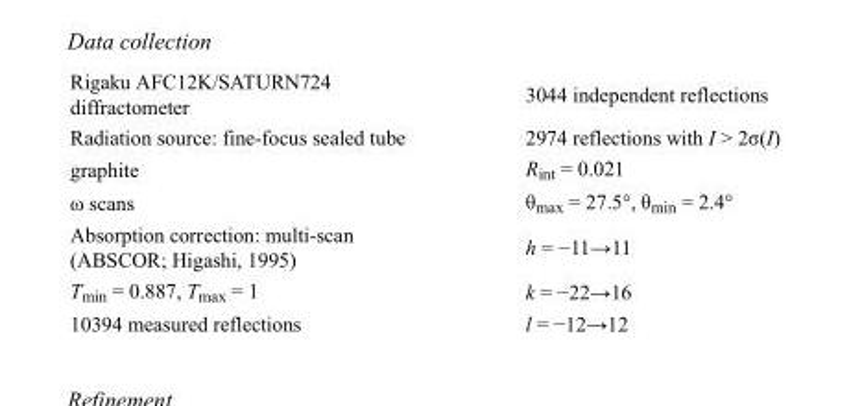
<table><tbody><tr><td>Rigaku AFC12K/SATURN724 diffractometer</td><td>3044 independent reflections</td></tr><tr><td>Radiation source: fine-focus sealed tube</td><td>2974 reflections with I &gt; 2σ(I)</td></tr><tr><td>graphite</td><td>R<sub>int</sub> = 0.021</td></tr><tr><td>ω scans</td><td>θ<sub>max</sub> = 27.5°, θ<sub>min</sub> = 2.4°</td></tr><tr><td>Absorption correction: multi-scan (ABSCOR; Higashi, 1995)</td><td>h = −11→11</td></tr><tr><td>T<sub>min</sub> = 0.887, T<sub>max</sub> = 1</td><td>k = −22→16</td></tr><tr><td>10394 measured reflections</td><td>l = −12→12</td></tr></tbody></table>